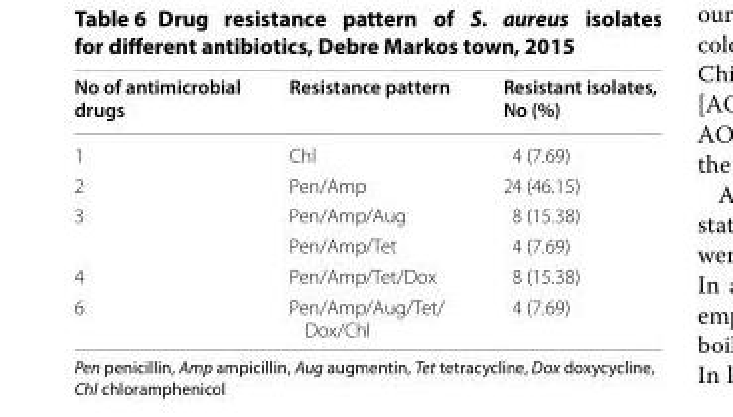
<table><thead><tr><td>No of antimicrobial drugs</td><td>Resistance pattern</td><td>Resistant isolates, No (%)</td></tr></thead><tbody><tr><td>1</td><td>Chl</td><td>4 (7.69)</td></tr><tr><td>2</td><td>Pen/Amp</td><td>24 (46.15)</td></tr><tr><td rowspan="2">3</td><td>Pen/Amp/Aug</td><td>8 (15.38)</td></tr><tr><td>Pen/Amp/Tet</td><td>4 (7.69)</td></tr><tr><td>4</td><td>Pen/Amp/Tet/Dox</td><td>8 (15.38)</td></tr><tr><td>6</td><td>Pen/Amp/Aug/Tet/ Dox/Chl</td><td>4 (7.69)</td></tr></tbody></table>